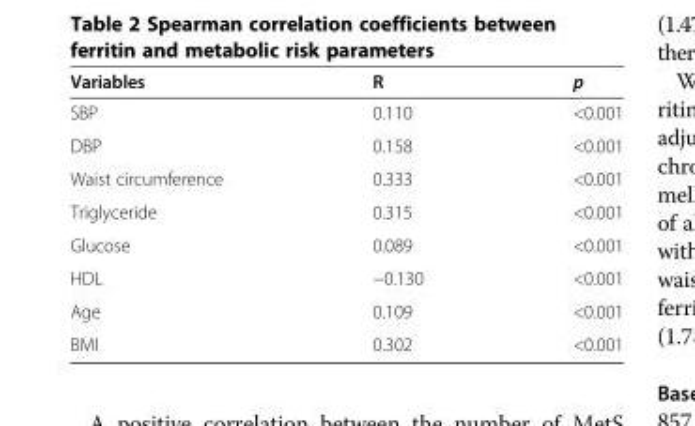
<table><thead><tr><td>Variables</td><td>R</td><td>p</td></tr></thead><tbody><tr><td>SBP</td><td>0.110</td><td>&lt;0.001</td></tr><tr><td>DBP</td><td>0.158</td><td>&lt;0.001</td></tr><tr><td>Waist circumference</td><td>0.333</td><td>&lt;0.001</td></tr><tr><td>Triglyceride</td><td>0.315</td><td>&lt;0.001</td></tr><tr><td>Glucose</td><td>0.089</td><td>&lt;0.001</td></tr><tr><td>HDL</td><td>−0.130</td><td>&lt;0.001</td></tr><tr><td>Age</td><td>0.109</td><td>&lt;0.001</td></tr><tr><td>BMI</td><td>0.302</td><td>&lt;0.001</td></tr></tbody></table>